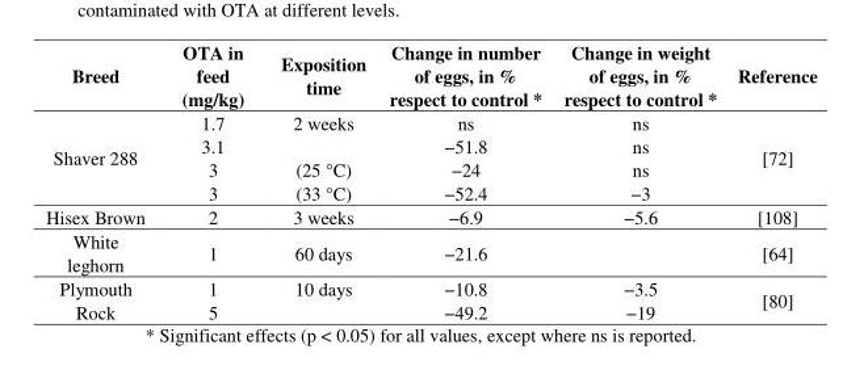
<table><thead><tr><td>Breed</td><td>OTA in feed (mg/kg)</td><td>Exposition time</td><td>Change in number of eggs, in % respect to control *</td><td>Change in weight of eggs, in % respect to control *</td><td>Reference</td></tr></thead><tbody><tr><td rowspan="4">Shaver 288</td><td>1.7</td><td>2 weeks</td><td>ns</td><td>ns</td><td rowspan="4">[72]</td></tr><tr><td>3.1</td><td></td><td>−51.8</td><td>ns</td></tr><tr><td>3</td><td>(25 °C)</td><td>−24</td><td>ns</td></tr><tr><td>3</td><td>(33 °C)</td><td>−52.4</td><td>−3</td></tr><tr><td>Hisex Brown</td><td>2</td><td>3 weeks</td><td>−6.9</td><td>−5.6</td><td>[108]</td></tr><tr><td>White leghorn</td><td>1</td><td>60 days</td><td>−21.6</td><td></td><td>[64]</td></tr><tr><td rowspan="2">Plymouth Rock</td><td>1</td><td>10 days</td><td>−10.8</td><td>−3.5</td><td rowspan="2">[80]</td></tr><tr><td>5</td><td></td><td>−49.2</td><td>−19</td></tr></tbody></table>